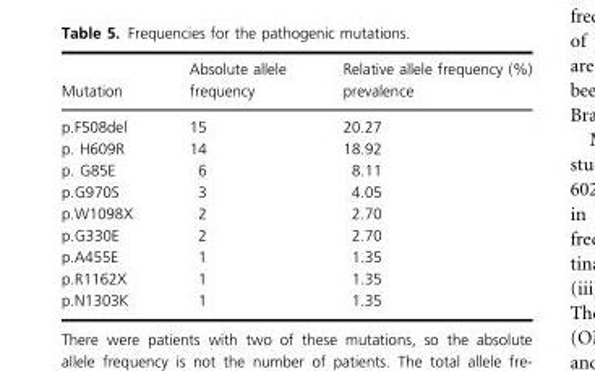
<table><thead><tr><td>Mutation</td><td>Absolute allele frequency</td><td>Relative allele frequency (%) prevalence</td></tr></thead><tbody><tr><td>p.F508del</td><td>15</td><td>20.27</td></tr><tr><td>p. H609R</td><td>14</td><td>18.92</td></tr><tr><td>p. G85E</td><td>6</td><td>8.11</td></tr><tr><td>p.G970S</td><td>3</td><td>4.05</td></tr><tr><td>p.W1098X</td><td>2</td><td>2.70</td></tr><tr><td>p.G330E</td><td>2</td><td>2.70</td></tr><tr><td>p.A455E</td><td>1</td><td>1.35</td></tr><tr><td>p.R1162X</td><td>1</td><td>1.35</td></tr><tr><td>p.N1303K</td><td>1</td><td>1.35</td></tr></tbody></table>